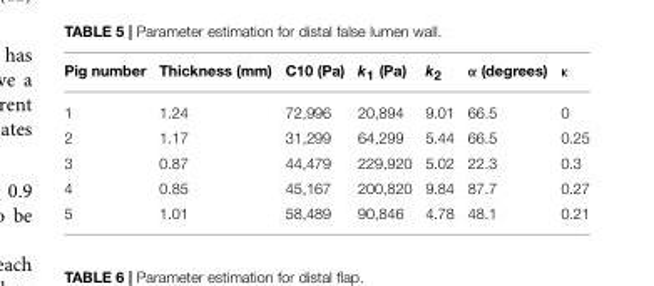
<table><thead><tr><td>Pig number</td><td>Thickness (mm)</td><td>C10 (Pa)</td><td>k<sub>1</sub> (Pa)</td><td>k<sub>2</sub></td><td>α (degrees)</td><td>κ</td></tr></thead><tbody><tr><td>1</td><td>1.24</td><td>72,996</td><td>20,894</td><td>9.01</td><td>66.5</td><td>0</td></tr><tr><td>2</td><td>1.17</td><td>31,299</td><td>64,299</td><td>5.44</td><td>66.5</td><td>0.25</td></tr><tr><td>3</td><td>0.87</td><td>44,479</td><td>229,920</td><td>5.02</td><td>22.3</td><td>0.3</td></tr><tr><td>4</td><td>0.85</td><td>45,167</td><td>200,820</td><td>9.84</td><td>87.7</td><td>0.27</td></tr><tr><td>5</td><td>1.01</td><td>58,489</td><td>90,846</td><td>4.78</td><td>48.1</td><td>0.21</td></tr></tbody></table>